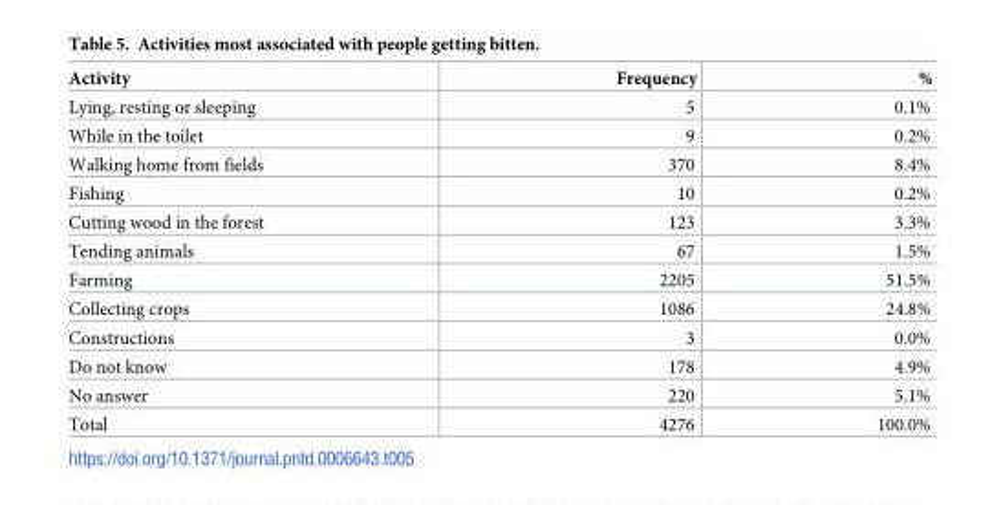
<table><thead><tr><td>Activity</td><td>Frequency</td><td>%</td></tr></thead><tbody><tr><td>Lying, resting or sleeping</td><td>5</td><td>0.1%</td></tr><tr><td>While in the toilet</td><td>9</td><td>0.2%</td></tr><tr><td>Walking home from fields</td><td>370</td><td>8.4%</td></tr><tr><td>Fishing</td><td>10</td><td>0.2%</td></tr><tr><td>Cutting wood in the forest</td><td>123</td><td>3.3%</td></tr><tr><td>Tending animals</td><td>67</td><td>1.5%</td></tr><tr><td>Farming</td><td>2205</td><td>51.5%</td></tr><tr><td>Collecting crops</td><td>1086</td><td>24.8%</td></tr><tr><td>Constructions</td><td>3</td><td>0.0%</td></tr><tr><td>Do not know</td><td>178</td><td>4.9%</td></tr><tr><td>No answer</td><td>220</td><td>5.1%</td></tr><tr><td>Total</td><td>4276</td><td>100.0%</td></tr></tbody></table>